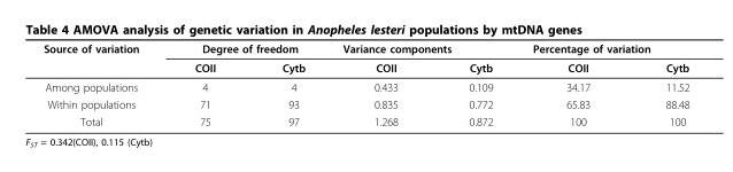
<table><thead><tr><td rowspan="2">Source of variation</td><td colspan="2">Degree of freedom</td><td colspan="2">Variance components</td><td colspan="2">Percentage of variation</td></tr><tr><td>COII</td><td>Cytb</td><td>COII</td><td>Cytb</td><td>COII</td><td>Cytb</td></tr></thead><tbody><tr><td>Among populations</td><td>4</td><td>4</td><td>0.433</td><td>0.109</td><td>34.17</td><td>11.52</td></tr><tr><td>Within populations</td><td>71</td><td>93</td><td>0.835</td><td>0.772</td><td>65.83</td><td>88.48</td></tr><tr><td>Total</td><td>75</td><td>97</td><td>1.268</td><td>0.872</td><td>100</td><td>100</td></tr></tbody></table>